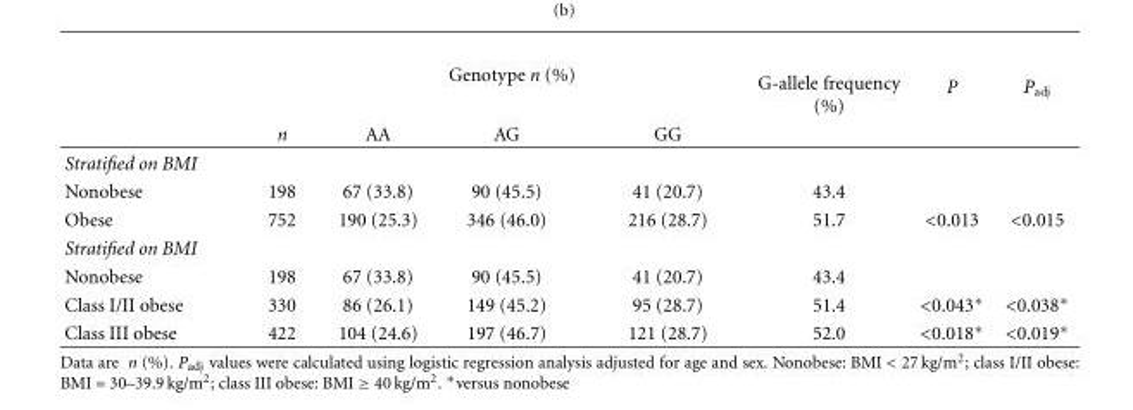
<table><thead><tr><td rowspan="2"></td><td rowspan="2">n</td><td colspan="3">Genotype n (%)</td><td rowspan="2">G-allele frequency (%)</td><td rowspan="2">P</td><td rowspan="2">P<sub>adj</sub></td></tr><tr><td>AA</td><td>AG</td><td>GG</td></tr></thead><tbody><tr><td colspan="8">Stratified on BMI</td></tr><tr><td>Nonobese</td><td>198</td><td>67 (33.8)</td><td>90 (45.5)</td><td>41 (20.7)</td><td>43.4</td><td></td><td></td></tr><tr><td>Obese</td><td>752</td><td>190 (25.3)</td><td>346 (46.0)</td><td>216 (28.7)</td><td>51.7</td><td>&lt;0.013</td><td>&lt;0.015</td></tr><tr><td colspan="8">Stratified on BMI</td></tr><tr><td>Nonobese</td><td>198</td><td>67 (33.8)</td><td>90 (45.5)</td><td>41 (20.7)</td><td>43.4</td><td></td><td></td></tr><tr><td>Class I/II obese</td><td>330</td><td>86 (26.1)</td><td>149 (45.2)</td><td>95 (28.7)</td><td>51.4</td><td>&lt;0.043∗</td><td>&lt;0.038∗</td></tr><tr><td>Class III obese</td><td>422</td><td>104 (24.6)</td><td>197 (46.7)</td><td>121 (28.7)</td><td>52.0</td><td>&lt;0.018∗</td><td>&lt;0.019∗</td></tr></tbody></table>